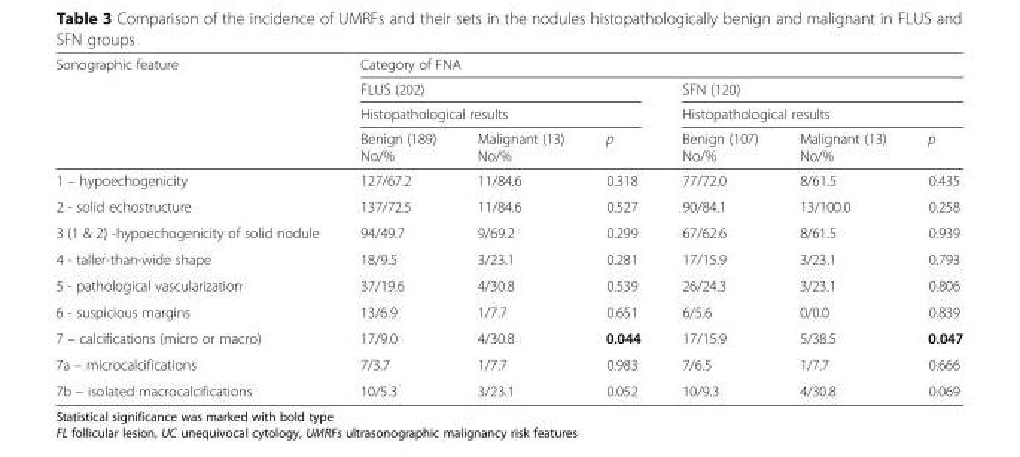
<table><thead><tr><td rowspan="4">Sonographic feature</td><td colspan="6">Category of FNA</td></tr><tr><td rowspan="2" colspan="3">FLUS (202) Histopathological results</td><td rowspan="2" colspan="3">SFN (120) Histopathological results</td></tr><tr></tr><tr><td>Benign (189) No/%</td><td>Malignant (13) No/%</td><td>p</td><td>Benign (107) No/%</td><td>Malignant (13) No/%</td><td>p</td></tr></thead><tbody><tr><td>1 – hypoechogenicity</td><td>127/67.2</td><td>11/84.6</td><td>0.318</td><td>77/72.0</td><td>8/61.5</td><td>0.435</td></tr><tr><td>2 - solid echostructure</td><td>137/72.5</td><td>11/84.6</td><td>0.527</td><td>90/84.1</td><td>13/100.0</td><td>0.258</td></tr><tr><td>3 (1 &amp; 2) -hypoechogenicity of solid nodule</td><td>94/49.7</td><td>9/69.2</td><td>0.299</td><td>67/62.6</td><td>8/61.5</td><td>0.939</td></tr><tr><td>4 - taller-than-wide shape</td><td>18/9.5</td><td>3/23.1</td><td>0.281</td><td>17/15.9</td><td>3/23.1</td><td>0.793</td></tr><tr><td>5 - pathological vascularization</td><td>37/19.6</td><td>4/30.8</td><td>0.539</td><td>26/24.3</td><td>3/23.1</td><td>0.806</td></tr><tr><td>6 - suspicious margins</td><td>13/6.9</td><td>1/7.7</td><td>0.651</td><td>6/5.6</td><td>0/0.0</td><td>0.839</td></tr><tr><td>7 – calcifications (micro or macro)</td><td>17/9.0</td><td>4/30.8</td><td>0.044</td><td>17/15.9</td><td>5/38.5</td><td>0.047</td></tr><tr><td>7a – microcalcifications</td><td>7/3.7</td><td>1/7.7</td><td>0.983</td><td>7/6.5</td><td>1/7.7</td><td>0.666</td></tr><tr><td>7b – isolated macrocalcifications</td><td>10/5.3</td><td>3/23.1</td><td>0.052</td><td>10/9.3</td><td>4/30.8</td><td>0.069</td></tr></tbody></table>